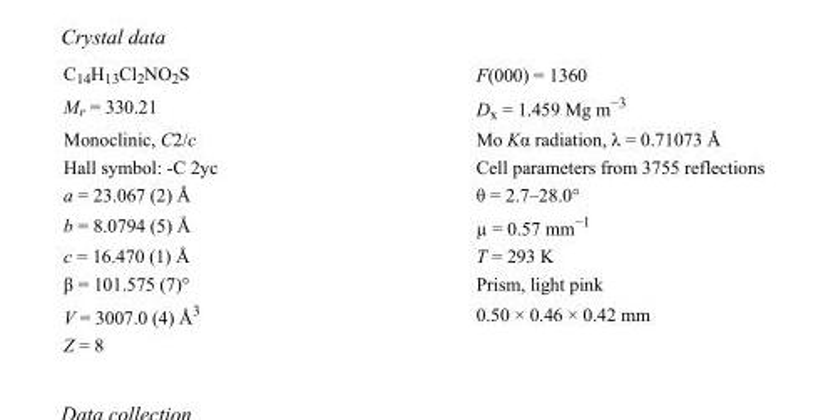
<table><tbody><tr><td>C<sub>14</sub>H<sub>13</sub>Cl<sub>2</sub>NO<sub>2</sub>S</td><td>F(000) = 1360</td></tr><tr><td>M<sub>r</sub> = 330.21</td><td>D<sub>x</sub> = 1.459 Mg m<sup>−3</sup></td></tr><tr><td>Monoclinic, C2/c</td><td>Mo Kα radiation, λ = 0.71073 Å</td></tr><tr><td>Hall symbol: -C 2yc</td><td>Cell parameters from 3755 reflections</td></tr><tr><td>a = 23.067 (2) Å</td><td>θ = 2.7–28.0°</td></tr><tr><td>b = 8.0794 (5) Å</td><td>µ = 0.57 mm<sup>−1</sup></td></tr><tr><td>c = 16.470 (1) Å</td><td>T = 293 K</td></tr><tr><td>β = 101.575 (7)°</td><td>Prism, light pink</td></tr><tr><td>V = 3007.0 (4) Å<sup>3</sup></td><td>0.50 × 0.46 × 0.42 mm</td></tr><tr><td>Z = 8</td><td></td></tr></tbody></table>